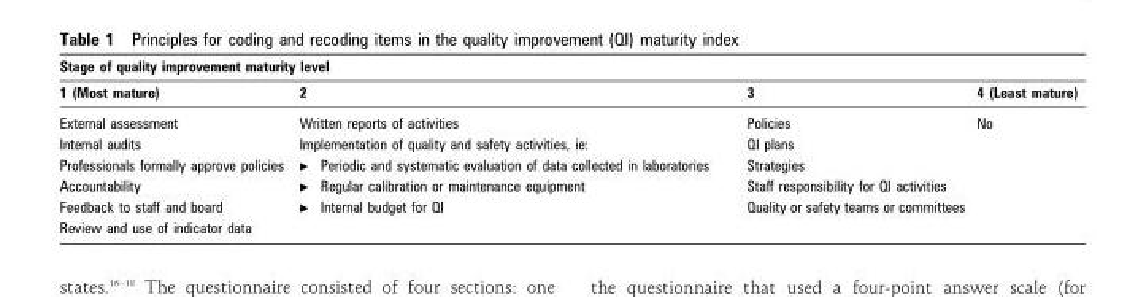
<table><thead><tr><td colspan="4">Stage of quality improvement maturity level</td></tr><tr><td>1 (Most mature)</td><td>2</td><td>3</td><td>4 (Least mature)</td></tr></thead><tbody><tr><td>External assessment</td><td>Written reports of activities</td><td>Policies</td><td>No</td></tr><tr><td>Internal audits</td><td>Implementation of quality and safety activities, ie:</td><td>QI plans</td><td></td></tr><tr><td>Professionals formally approve policies</td><td>c Periodic and systematic evaluation of data collected in laboratories</td><td>Strategies</td><td></td></tr><tr><td>Accountability</td><td>c Regular calibration or maintenance equipment</td><td>Staff responsibility for QI activities</td><td></td></tr><tr><td>Feedback to staff and board</td><td>c Internal budget for QI</td><td>Quality or safety teams or committees</td><td></td></tr><tr><td>Review and use of indicator data</td><td></td><td></td><td></td></tr></tbody></table>